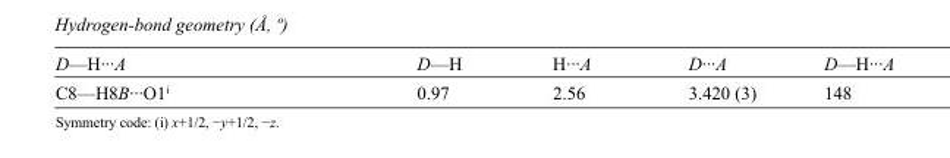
<table><tbody><tr><td>D—H···A</td><td>D—H</td><td>H···A</td><td>D···A</td><td>D—H···A</td></tr><tr><td>C8—H8B···O1<sup>i</sup></td><td>0.97</td><td>2.56</td><td>3.420 (3)</td><td>148</td></tr></tbody></table>